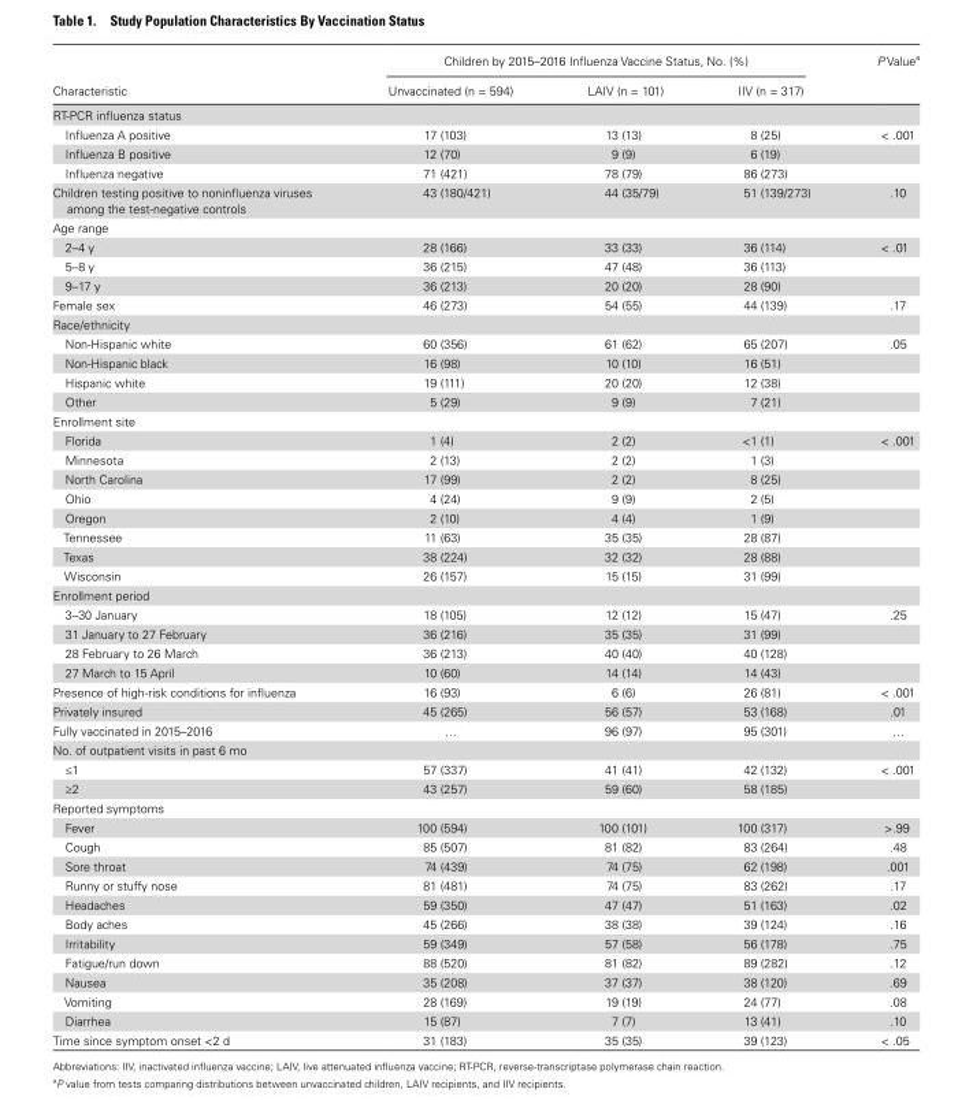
<table><thead><tr><td rowspan="2">Characteristic</td><td colspan="3">Children by 2015–2016 Influenza Vaccine Status, No. (%)</td><td rowspan="2">P Value<sup>a</sup></td></tr><tr><td>Unvaccinated (n = 594)</td><td>LAIV (n = 101)</td><td>IIV (n = 317)</td></tr></thead><tbody><tr><td colspan="5">RT-PCR influenza status</td></tr><tr><td>Influenza A positive</td><td>17 (103)</td><td>13 (13)</td><td>8 (25)</td><td>&lt; .001</td></tr><tr><td>Influenza B positive</td><td>12 (70)</td><td>9 (9)</td><td>6 (19)</td><td></td></tr><tr><td>Influenza negative</td><td>71 (421)</td><td>78 (79)</td><td>86 (273)</td><td></td></tr><tr><td>Children testing positive to noninfluenza viruses among the test-negative controls</td><td>43 (180/421)</td><td>44 (35/79)</td><td>51 (139/273)</td><td>.10</td></tr><tr><td colspan="5">Age range</td></tr><tr><td>2–4 y</td><td>28 (166)</td><td>33 (33)</td><td>36 (114)</td><td>&lt; .01</td></tr><tr><td>5–8 y</td><td>36 (215)</td><td>47 (48)</td><td>36 (113)</td><td></td></tr><tr><td>9–17 y</td><td>36 (213)</td><td>20 (20)</td><td>28 (90)</td><td></td></tr><tr><td>Female sex</td><td>46 (273)</td><td>54 (55)</td><td>44 (139)</td><td>.17</td></tr><tr><td colspan="5">Race/ethnicity</td></tr><tr><td>Non-Hispanic white</td><td>60 (356)</td><td>61 (62)</td><td>65 (207)</td><td>.05</td></tr><tr><td>Non-Hispanic black</td><td>16 (98)</td><td>10 (10)</td><td>16 (51)</td><td></td></tr><tr><td>Hispanic white</td><td>19 (111)</td><td>20 (20)</td><td>12 (38)</td><td></td></tr><tr><td>Other</td><td>5 (29)</td><td>9 (9)</td><td>7 (21)</td><td></td></tr><tr><td colspan="5">Enrollment site</td></tr><tr><td>Florida</td><td>1 (4)</td><td>2 (2)</td><td>&lt;1 (1)</td><td>&lt; .001</td></tr><tr><td>Minnesota</td><td>2 (13)</td><td>2 (2)</td><td>1 (3)</td><td></td></tr><tr><td>North Carolina</td><td>17 (99)</td><td>2 (2)</td><td>8 (25)</td><td></td></tr><tr><td>Ohio</td><td>4 (24)</td><td>9 (9)</td><td>2 (5)</td><td></td></tr><tr><td>Oregon</td><td>2 (10)</td><td>4 (4)</td><td>1 (9)</td><td></td></tr><tr><td>Tennessee</td><td>11 (63)</td><td>35 (35)</td><td>28 (87)</td><td></td></tr><tr><td>Texas</td><td>38 (224)</td><td>32 (32)</td><td>28 (88)</td><td></td></tr><tr><td>Wisconsin</td><td>26 (157)</td><td>15 (15)</td><td>31 (99)</td><td></td></tr><tr><td colspan="5">Enrollment period</td></tr><tr><td>3–30 January</td><td>18 (105)</td><td>12 (12)</td><td>15 (47)</td><td>.25</td></tr><tr><td>31 January to 27 February</td><td>36 (216)</td><td>35 (35)</td><td>31 (99)</td><td></td></tr><tr><td>28 February to 26 March</td><td>36 (213)</td><td>40 (40)</td><td>40 (128)</td><td></td></tr><tr><td>27 March to 15 April</td><td>10 (60)</td><td>14 (14)</td><td>14 (43)</td><td></td></tr><tr><td>Presence of high-risk conditions for influenza</td><td>16 (93)</td><td>6 (6)</td><td>26 (81)</td><td>&lt; .001</td></tr><tr><td>Privately insured</td><td>45 (265)</td><td>56 (57)</td><td>53 (168)</td><td>.01</td></tr><tr><td>Fully vaccinated in 2015–2016</td><td>…</td><td>96 (97)</td><td>95 (301)</td><td>…</td></tr><tr><td colspan="5">No. of outpatient visits in past 6 mo</td></tr><tr><td>≤1</td><td>57 (337)</td><td>41 (41)</td><td>42 (132)</td><td>&lt; .001</td></tr><tr><td>≥2</td><td>43 (257)</td><td>59 (60)</td><td>58 (185)</td><td></td></tr><tr><td colspan="5">Reported symptoms</td></tr><tr><td>Fever</td><td>100 (594)</td><td>100 (101)</td><td>100 (317)</td><td>&gt;.99</td></tr><tr><td>Cough</td><td>85 (507)</td><td>81 (82)</td><td>83 (264)</td><td>.48</td></tr><tr><td>Sore throat</td><td>74 (439)</td><td>74 (75)</td><td>62 (198)</td><td>.001</td></tr><tr><td>Runny or stuffy nose</td><td>81 (481)</td><td>74 (75)</td><td>83 (262)</td><td>.17</td></tr><tr><td>Headaches</td><td>59 (350)</td><td>47 (47)</td><td>51 (163)</td><td>.02</td></tr><tr><td>Body aches</td><td>45 (266)</td><td>38 (38)</td><td>39 (124)</td><td>.16</td></tr><tr><td>Irritability</td><td>59 (349)</td><td>57 (58)</td><td>56 (178)</td><td>.75</td></tr><tr><td>Fatigue/run down</td><td>88 (520)</td><td>81 (82)</td><td>89 (282)</td><td>.12</td></tr><tr><td>Nausea</td><td>35 (208)</td><td>37 (37)</td><td>38 (120)</td><td>.69</td></tr><tr><td>Vomiting</td><td>28 (169)</td><td>19 (19)</td><td>24 (77)</td><td>.08</td></tr><tr><td>Diarrhea</td><td>15 (87)</td><td>7 (7)</td><td>13 (41)</td><td>.10</td></tr><tr><td>Time since symptom onset &lt;2 d</td><td>31 (183)</td><td>35 (35)</td><td>39 (123)</td><td>&lt; .05</td></tr></tbody></table>